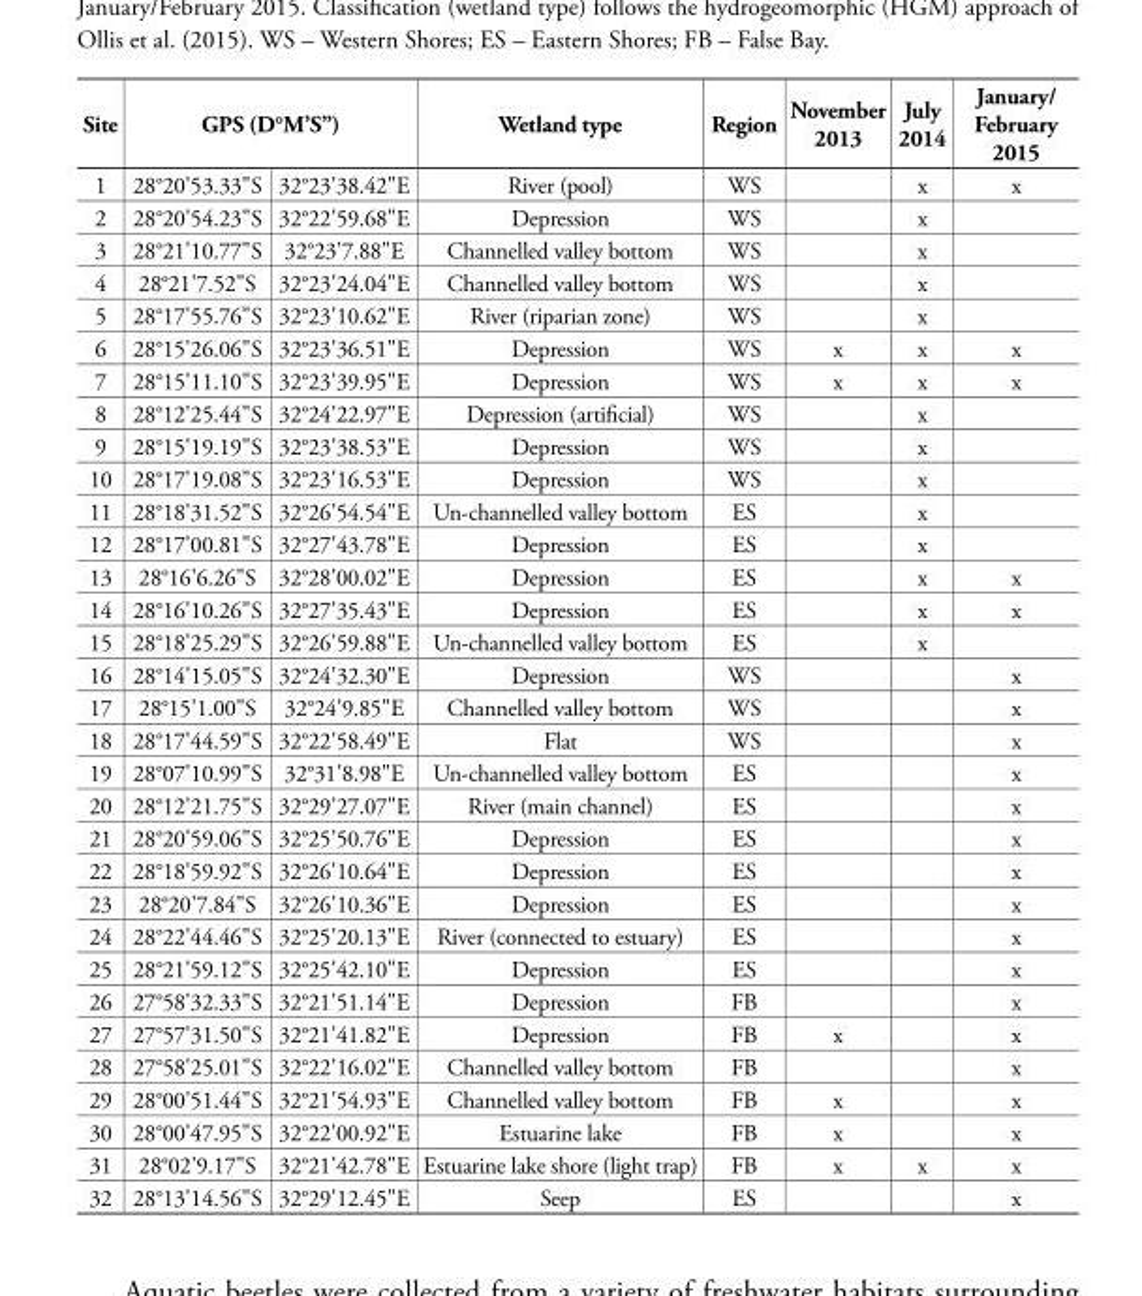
<table><thead><tr><td rowspan="2">Site 1</td><td colspan="2">GPS (D°M’S”)</td><td rowspan="2">Wetland type River (pool)</td><td rowspan="2">Region WS</td><td rowspan="2">November 2013</td><td rowspan="2">July 2014 x</td><td rowspan="2">January/ February 2015 x</td></tr><tr><td>28°20&#x27;53.33&quot;S</td><td>32°23&#x27;38.42&quot;E</td></tr></thead><tbody><tr><td>2</td><td>28°20&#x27;54.23&quot;S</td><td>32°22&#x27;59.68&quot;E</td><td>Depression</td><td>WS</td><td></td><td>x</td><td></td></tr><tr><td>3</td><td>28°21&#x27;10.77&quot;S</td><td>32°23&#x27;7.88&quot;E</td><td>Channelled valley bottom</td><td>WS</td><td></td><td>x</td><td></td></tr><tr><td>4</td><td>28°21&#x27;7.52&quot;S</td><td>32°23&#x27;24.04&quot;E</td><td>Channelled valley bottom</td><td>WS</td><td></td><td>x</td><td></td></tr><tr><td>5</td><td>28°17&#x27;55.76&quot;S</td><td>32°23&#x27;10.62&quot;E</td><td>River (riparian zone)</td><td>WS</td><td></td><td>x</td><td></td></tr><tr><td>6</td><td>28°15&#x27;26.06&quot;S</td><td>32°23&#x27;36.51&quot;E</td><td>Depression</td><td>WS</td><td>x</td><td>x</td><td>x</td></tr><tr><td>7</td><td>28°15&#x27;11.10&quot;S</td><td>32°23&#x27;39.95&quot;E</td><td>Depression</td><td>WS</td><td>x</td><td>x</td><td>x</td></tr><tr><td>8</td><td>28°12&#x27;25.44&quot;S</td><td>32°24&#x27;22.97&quot;E</td><td>Depression (artificial)</td><td>WS</td><td></td><td>x</td><td></td></tr><tr><td>9</td><td>28°15&#x27;19.19&quot;S</td><td>32°23&#x27;38.53&quot;E</td><td>Depression</td><td>WS</td><td></td><td>x</td><td></td></tr><tr><td>10</td><td>28°17&#x27;19.08&quot;S</td><td>32°23&#x27;16.53&quot;E</td><td>Depression</td><td>WS</td><td></td><td>x</td><td></td></tr><tr><td>11</td><td>28°18&#x27;31.52&quot;S</td><td>32°26&#x27;54.54&quot;E</td><td>Un-channelled valley bottom</td><td>ES</td><td></td><td>x</td><td></td></tr><tr><td>12</td><td>28°17&#x27;00.81&quot;S</td><td>32°27&#x27;43.78&quot;E</td><td>Depression</td><td>ES</td><td></td><td>x</td><td></td></tr><tr><td>13</td><td>28°16&#x27;6.26&quot;S</td><td>32°28&#x27;00.02&quot;E</td><td>Depression</td><td>ES</td><td></td><td>x</td><td>x</td></tr><tr><td>14</td><td>28°16&#x27;10.26&quot;S</td><td>32°27&#x27;35.43&quot;E</td><td>Depression</td><td>ES</td><td></td><td>x</td><td>x</td></tr><tr><td>15</td><td>28°18&#x27;25.29&quot;S</td><td>32°26&#x27;59.88&quot;E</td><td>Un-channelled valley bottom</td><td>ES</td><td></td><td>x</td><td></td></tr><tr><td>16</td><td>28°14&#x27;15.05&quot;S</td><td>32°24&#x27;32.30&quot;E</td><td>Depression</td><td>WS</td><td></td><td></td><td>x</td></tr><tr><td>17</td><td>28°15&#x27;1.00&quot;S</td><td>32°24&#x27;9.85&quot;E</td><td>Channelled valley bottom</td><td>WS</td><td></td><td></td><td>x</td></tr><tr><td>18</td><td>28°17&#x27;44.59&quot;S</td><td>32°22&#x27;58.49&quot;E</td><td>Flat</td><td>WS</td><td></td><td></td><td>x</td></tr><tr><td>19</td><td>28°07&#x27;10.99&quot;S</td><td>32°31&#x27;8.98&quot;E</td><td>Un-channelled valley bottom</td><td>ES</td><td></td><td></td><td>x</td></tr><tr><td>20</td><td>28°12&#x27;21.75&quot;S</td><td>32°29&#x27;27.07&quot;E</td><td>River (main channel)</td><td>ES</td><td></td><td></td><td>x</td></tr><tr><td>21</td><td>28°20&#x27;59.06&quot;S</td><td>32°25&#x27;50.76&quot;E</td><td>Depression</td><td>ES</td><td></td><td></td><td>x</td></tr><tr><td>22</td><td>28°18&#x27;59.92&quot;S</td><td>32°26&#x27;10.64&quot;E</td><td>Depression</td><td>ES</td><td></td><td></td><td>x</td></tr><tr><td>23</td><td>28°20&#x27;7.84&quot;S</td><td>32°26&#x27;10.36&quot;E</td><td>Depression</td><td>ES</td><td></td><td></td><td>x</td></tr><tr><td>24</td><td>28°22&#x27;44.46&quot;S</td><td>32°25&#x27;20.13&quot;E</td><td>River (connected to estuary)</td><td>ES</td><td></td><td></td><td>x</td></tr><tr><td>25</td><td>28°21&#x27;59.12&quot;S</td><td>32°25&#x27;42.10&quot;E</td><td>Depression</td><td>ES</td><td></td><td></td><td>x</td></tr><tr><td>26</td><td>27°58&#x27;32.33&quot;S</td><td>32°21&#x27;51.14&quot;E</td><td>Depression</td><td>FB</td><td></td><td></td><td>x</td></tr><tr><td>27</td><td>27°57&#x27;31.50&quot;S</td><td>32°21&#x27;41.82&quot;E</td><td>Depression</td><td>FB</td><td>x</td><td></td><td>x</td></tr><tr><td>28</td><td>27°58&#x27;25.01&quot;S</td><td>32°22&#x27;16.02&quot;E</td><td>Channelled valley bottom</td><td>FB</td><td></td><td></td><td>x</td></tr><tr><td>29</td><td>28°00&#x27;51.44&quot;S</td><td>32°21&#x27;54.93&quot;E</td><td>Channelled valley bottom</td><td>FB</td><td>x</td><td></td><td>x</td></tr><tr><td>30</td><td>28°00&#x27;47.95&quot;S</td><td>32°22&#x27;00.92&quot;E</td><td>Estuarine lake</td><td>FB</td><td>x</td><td></td><td>x</td></tr><tr><td>31</td><td>28°02&#x27;9.17&quot;S</td><td>32°21&#x27;42.78&quot;E</td><td>Estuarine lake shore (light trap)</td><td>FB</td><td>x</td><td>x</td><td>x</td></tr><tr><td>32</td><td>28°13&#x27;14.56&quot;S</td><td>32°29&#x27;12.45&quot;E</td><td>Seep</td><td>ES</td><td></td><td></td><td>x</td></tr></tbody></table>